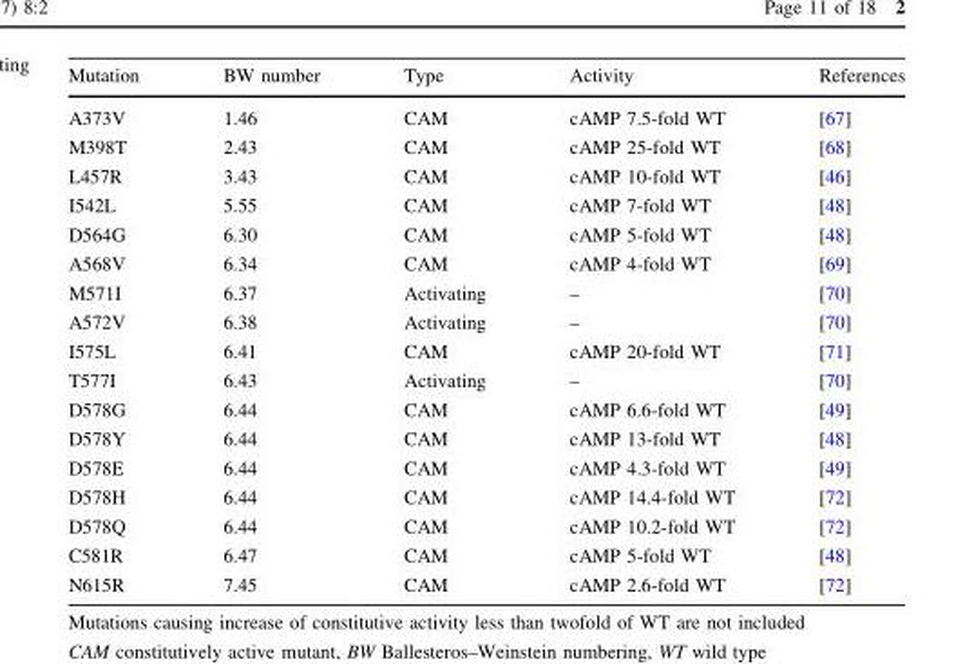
<table><thead><tr><td>Mutation</td><td>BW number</td><td>Type</td><td>Activity</td><td>References</td></tr></thead><tbody><tr><td>A373V</td><td>1.46</td><td>CAM</td><td>cAMP 7.5-fold WT</td><td>[67]</td></tr><tr><td>M398T</td><td>2.43</td><td>CAM</td><td>cAMP 25-fold WT</td><td>[68]</td></tr><tr><td>L457R</td><td>3.43</td><td>CAM</td><td>cAMP 10-fold WT</td><td>[46]</td></tr><tr><td>I542L</td><td>5.55</td><td>CAM</td><td>cAMP 7-fold WT</td><td>[48]</td></tr><tr><td>D564G</td><td>6.30</td><td>CAM</td><td>cAMP 5-fold WT</td><td>[48]</td></tr><tr><td>A568V</td><td>6.34</td><td>CAM</td><td>cAMP 4-fold WT</td><td>[69]</td></tr><tr><td>M571I</td><td>6.37</td><td>Activating</td><td>–</td><td>[70]</td></tr><tr><td>A572V</td><td>6.38</td><td>Activating</td><td>–</td><td>[70]</td></tr><tr><td>I575L</td><td>6.41</td><td>CAM</td><td>cAMP 20-fold WT</td><td>[71]</td></tr><tr><td>T577I</td><td>6.43</td><td>Activating</td><td>–</td><td>[70]</td></tr><tr><td>D578G</td><td>6.44</td><td>CAM</td><td>cAMP 6.6-fold WT</td><td>[49]</td></tr><tr><td>D578Y</td><td>6.44</td><td>CAM</td><td>cAMP 13-fold WT</td><td>[48]</td></tr><tr><td>D578E</td><td>6.44</td><td>CAM</td><td>cAMP 4.3-fold WT</td><td>[49]</td></tr><tr><td>D578H</td><td>6.44</td><td>CAM</td><td>cAMP 14.4-fold WT</td><td>[72]</td></tr><tr><td>D578Q</td><td>6.44</td><td>CAM</td><td>cAMP 10.2-fold WT</td><td>[72]</td></tr><tr><td>C581R</td><td>6.47</td><td>CAM</td><td>cAMP 5-fold WT</td><td>[48]</td></tr><tr><td>N615R</td><td>7.45</td><td>CAM</td><td>cAMP 2.6-fold WT</td><td>[72]</td></tr></tbody></table>